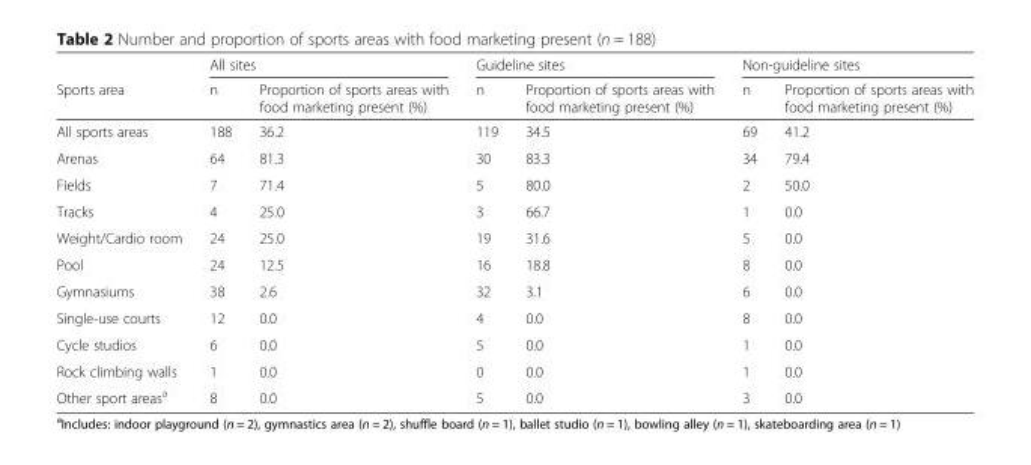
<table><thead><tr><td rowspan="2">Sports area</td><td colspan="2">All sites</td><td colspan="2">Guideline sites</td><td colspan="2">Non-guideline sites</td></tr><tr><td>n</td><td>Proportion of sports areas with food marketing present (%)</td><td>n</td><td>Proportion of sports areas with food marketing present (%)</td><td>n</td><td>Proportion of sports areas with food marketing present (%)</td></tr></thead><tbody><tr><td>All sports areas</td><td>188</td><td>36.2</td><td>119</td><td>34.5</td><td>69</td><td>41.2</td></tr><tr><td>Arenas</td><td>64</td><td>81.3</td><td>30</td><td>83.3</td><td>34</td><td>79.4</td></tr><tr><td>Fields</td><td>7</td><td>71.4</td><td>5</td><td>80.0</td><td>2</td><td>50.0</td></tr><tr><td>Tracks</td><td>4</td><td>25.0</td><td>3</td><td>66.7</td><td>1</td><td>0.0</td></tr><tr><td>Weight/Cardio room</td><td>24</td><td>25.0</td><td>19</td><td>31.6</td><td>5</td><td>0.0</td></tr><tr><td>Pool</td><td>24</td><td>12.5</td><td>16</td><td>18.8</td><td>8</td><td>0.0</td></tr><tr><td>Gymnasiums</td><td>38</td><td>2.6</td><td>32</td><td>3.1</td><td>6</td><td>0.0</td></tr><tr><td>Single-use courts</td><td>12</td><td>0.0</td><td>4</td><td>0.0</td><td>8</td><td>0.0</td></tr><tr><td>Cycle studios</td><td>6</td><td>0.0</td><td>5</td><td>0.0</td><td>1</td><td>0.0</td></tr><tr><td>Rock climbing walls</td><td>1</td><td>0.0</td><td>0</td><td>0.0</td><td>1</td><td>0.0</td></tr><tr><td>Other sport areas<sup>a</sup></td><td>8</td><td>0.0</td><td>5</td><td>0.0</td><td>3</td><td>0.0</td></tr></tbody></table>